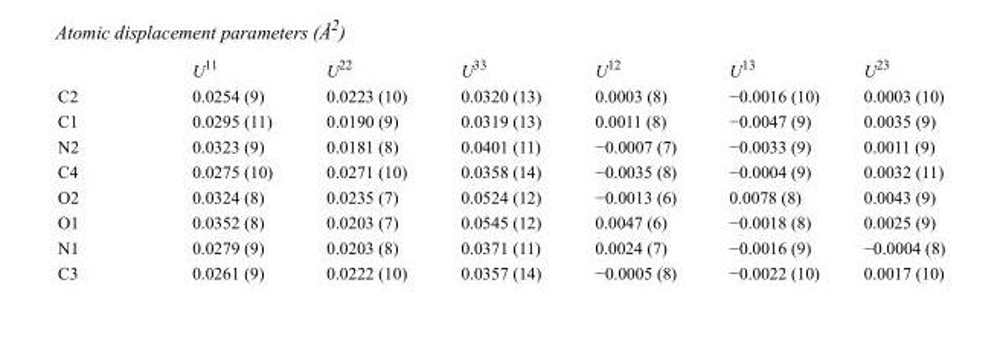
<table><thead><tr><td></td><td>U<sup>11</sup></td><td>U<sup>22</sup></td><td>U<sup>33</sup></td><td>U<sup>12</sup></td><td>U<sup>13</sup></td><td>U<sup>23</sup></td></tr></thead><tbody><tr><td>C2</td><td>0.0254 (9)</td><td>0.0223 (10)</td><td>0.0320 (13)</td><td>0.0003 (8)</td><td>−0.0016 (10)</td><td>0.0003 (10)</td></tr><tr><td>C1</td><td>0.0295 (11)</td><td>0.0190 (9)</td><td>0.0319 (13)</td><td>0.0011 (8)</td><td>−0.0047 (9)</td><td>0.0035 (9)</td></tr><tr><td>N2</td><td>0.0323 (9)</td><td>0.0181 (8)</td><td>0.0401 (11)</td><td>−0.0007 (7)</td><td>−0.0033 (9)</td><td>0.0011 (9)</td></tr><tr><td>C4</td><td>0.0275 (10)</td><td>0.0271 (10)</td><td>0.0358 (14)</td><td>−0.0035 (8)</td><td>−0.0004 (9)</td><td>0.0032 (11)</td></tr><tr><td>O2</td><td>0.0324 (8)</td><td>0.0235 (7)</td><td>0.0524 (12)</td><td>−0.0013 (6)</td><td>0.0078 (8)</td><td>0.0043 (9)</td></tr><tr><td>O1</td><td>0.0352 (8)</td><td>0.0203 (7)</td><td>0.0545 (12)</td><td>0.0047 (6)</td><td>−0.0018 (8)</td><td>0.0025 (9)</td></tr><tr><td>N1</td><td>0.0279 (9)</td><td>0.0203 (8)</td><td>0.0371 (11)</td><td>0.0024 (7)</td><td>−0.0016 (9)</td><td>−0.0004 (8)</td></tr><tr><td>C3</td><td>0.0261 (9)</td><td>0.0222 (10)</td><td>0.0357 (14)</td><td>−0.0005 (8)</td><td>−0.0022 (10)</td><td>0.0017 (10)</td></tr></tbody></table>